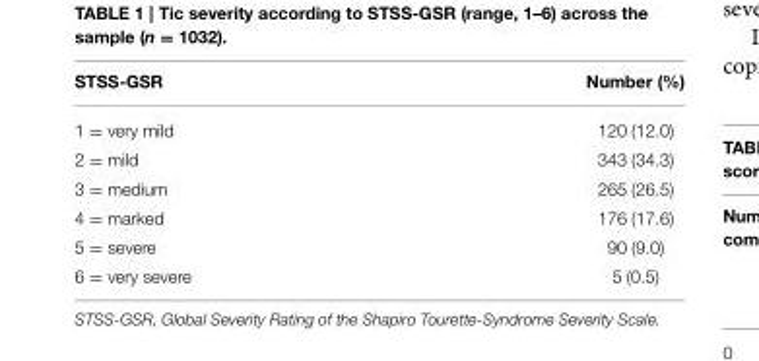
<table><thead><tr><td>STSS-GSR</td><td>Number (%)</td></tr></thead><tbody><tr><td>1 = very mild</td><td>120 (12.0)</td></tr><tr><td>2 = mild</td><td>343 (34.3)</td></tr><tr><td>3 = medium</td><td>265 (26.5)</td></tr><tr><td>4 = marked</td><td>176 (17.6)</td></tr><tr><td>5 = severe</td><td>90 (9.0)</td></tr><tr><td>6 = very severe</td><td>5 (0.5)</td></tr></tbody></table>